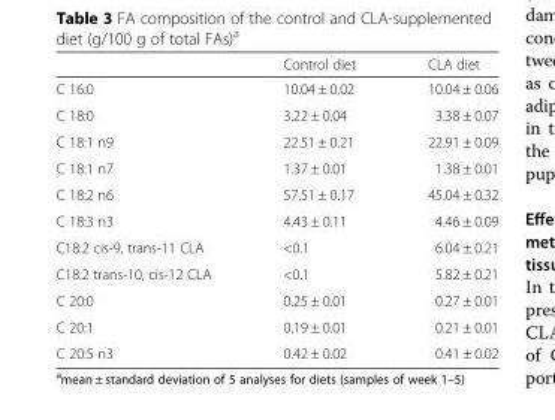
<table><thead><tr><td></td><td>Control diet</td><td>CLA diet</td></tr></thead><tbody><tr><td>C 16:0</td><td>10.04 ± 0.02</td><td>10.04 ± 0.06</td></tr><tr><td>C 18:0</td><td>3.22 ± 0.04</td><td>3.38 ± 0.07</td></tr><tr><td>C 18:1 n9</td><td>22.51 ± 0.21</td><td>22.91 ± 0.09</td></tr><tr><td>C 18:1 n7</td><td>1.37 ± 0.01</td><td>1.38 ± 0.01</td></tr><tr><td>C 18:2 n6</td><td>57.51 ± 0.17</td><td>45.04 ± 0.32</td></tr><tr><td>C 18:3 n3</td><td>4.43 ± 0.11</td><td>4.46 ± 0.09</td></tr><tr><td>C18:2 cis-9, trans-11 CLA</td><td>&lt;0.1</td><td>6.04 ± 0.21</td></tr><tr><td>C18:2 trans-10, cis-12 CLA</td><td>&lt;0.1</td><td>5.82 ± 0.21</td></tr><tr><td>C 20:0</td><td>0.25 ± 0.01</td><td>0.27 ± 0.01</td></tr><tr><td>C 20:1</td><td>0.19 ± 0.01</td><td>0.21 ± 0.01</td></tr><tr><td>C 20:5 n3</td><td>0.42 ± 0.02</td><td>0.41 ± 0.02</td></tr></tbody></table>